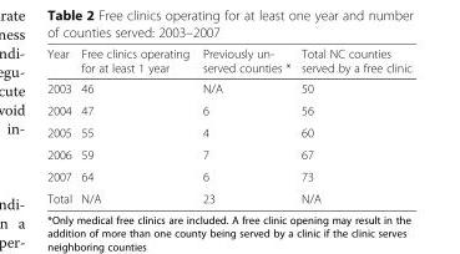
<table><thead><tr><td>Year</td><td>Free clinics operating for at least 1 year</td><td>Previously un- served counties *</td><td>Total NC counties served by a free clinic</td></tr></thead><tbody><tr><td>2003</td><td>46</td><td>N/A</td><td>50</td></tr><tr><td>2004</td><td>47</td><td>6</td><td>56</td></tr><tr><td>2005</td><td>55</td><td>4</td><td>60</td></tr><tr><td>2006</td><td>59</td><td>7</td><td>67</td></tr><tr><td>2007</td><td>64</td><td>6</td><td>73</td></tr><tr><td>Total</td><td>N/A</td><td>23</td><td>N/A</td></tr></tbody></table>